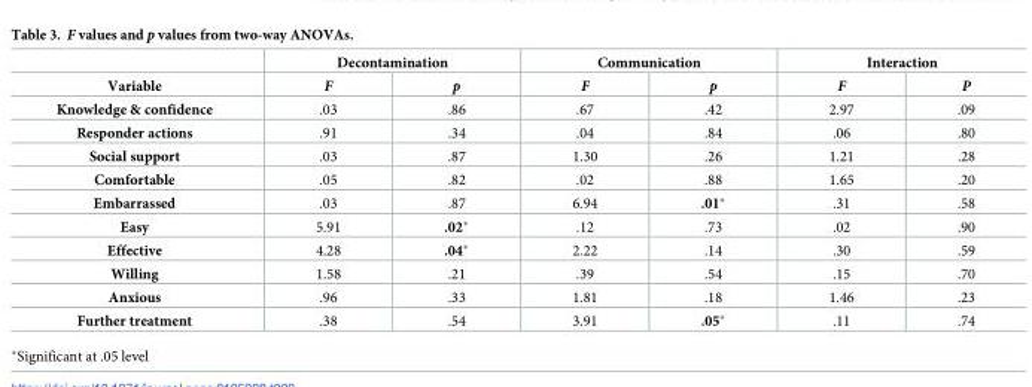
<table><thead><tr><td rowspan="2">Variable</td><td colspan="2">Decontamination</td><td colspan="2">Communication</td><td colspan="2">Interaction</td></tr><tr><td>F</td><td>p</td><td>F</td><td>p</td><td>F</td><td>P</td></tr></thead><tbody><tr><td>Knowledge &amp; confidence</td><td>.03</td><td>.86</td><td>.67</td><td>.42</td><td>2.97</td><td>.09</td></tr><tr><td>Responder actions</td><td>.91</td><td>.34</td><td>.04</td><td>.84</td><td>.06</td><td>.80</td></tr><tr><td>Social support</td><td>.03</td><td>.87</td><td>1.30</td><td>.26</td><td>1.21</td><td>.28</td></tr><tr><td>Comfortable</td><td>.05</td><td>.82</td><td>.02</td><td>.88</td><td>1.65</td><td>.20</td></tr><tr><td>Embarrassed</td><td>.03</td><td>.87</td><td>6.94</td><td>.01*</td><td>.31</td><td>.58</td></tr><tr><td>Easy</td><td>5.91</td><td>.02*</td><td>.12</td><td>.73</td><td>.02</td><td>.90</td></tr><tr><td>Effective</td><td>4.28</td><td>.04*</td><td>2.22</td><td>.14</td><td>.30</td><td>.59</td></tr><tr><td>Willing</td><td>1.58</td><td>.21</td><td>.39</td><td>.54</td><td>.15</td><td>.70</td></tr><tr><td>Anxious</td><td>.96</td><td>.33</td><td>1.81</td><td>.18</td><td>1.46</td><td>.23</td></tr><tr><td>Further treatment</td><td>.38</td><td>.54</td><td>3.91</td><td>.05*</td><td>.11</td><td>.74</td></tr></tbody></table>